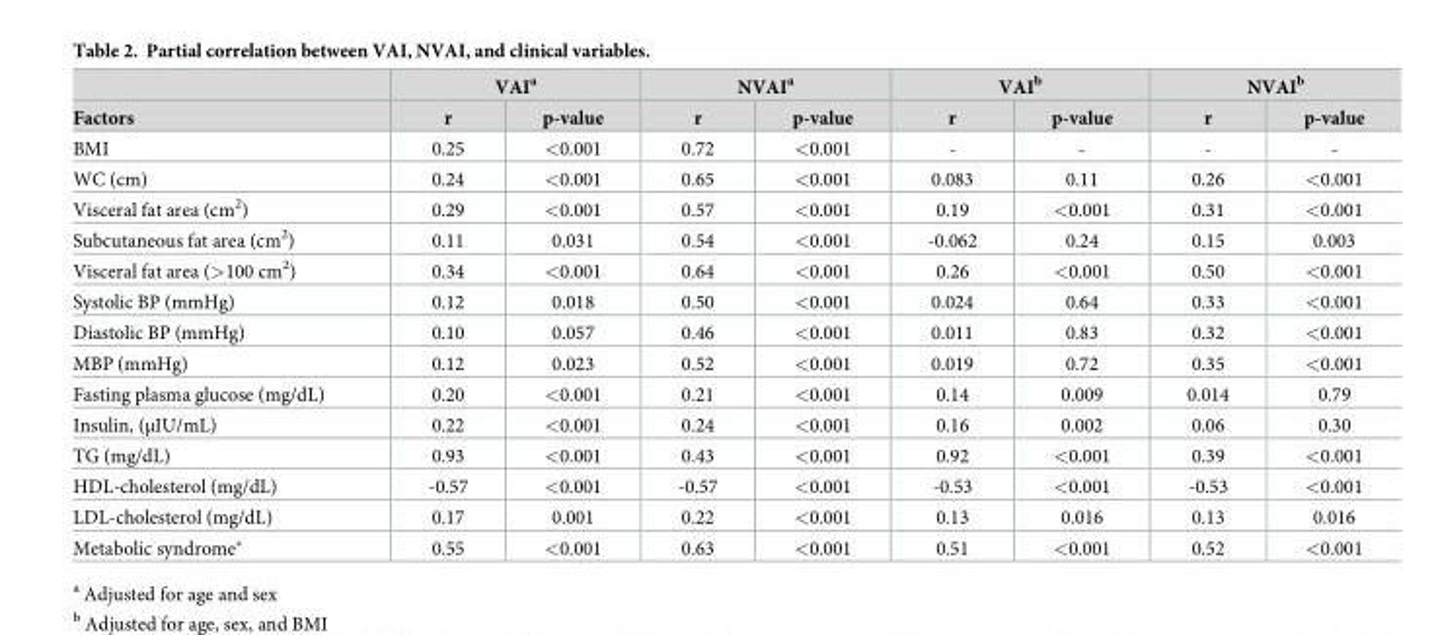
<table><thead><tr><td rowspan="2">Factors</td><td colspan="2">VAI<sup>a</sup></td><td colspan="2">NVAI<sup>a</sup></td><td colspan="2">VAI<sup>b</sup></td><td colspan="2">NVAI<sup>b</sup></td></tr><tr><td>r</td><td>p-value</td><td>r</td><td>p-value</td><td>r</td><td>p-value</td><td>r</td><td>p-value</td></tr></thead><tbody><tr><td>BMI</td><td>0.25</td><td>&lt;0.001</td><td>0.72</td><td>&lt;0.001</td><td>-</td><td>-</td><td>-</td><td>-</td></tr><tr><td>WC (cm)</td><td>0.24</td><td>&lt;0.001</td><td>0.65</td><td>&lt;0.001</td><td>0.083</td><td>0.11</td><td>0.26</td><td>&lt;0.001</td></tr><tr><td>Visceral fat area (cm<sup>2</sup>)</td><td>0.29</td><td>&lt;0.001</td><td>0.57</td><td>&lt;0.001</td><td>0.19</td><td>&lt;0.001</td><td>0.31</td><td>&lt;0.001</td></tr><tr><td>Subcutaneous fat area (cm<sup>2</sup>)</td><td>0.11</td><td>0.031</td><td>0.54</td><td>&lt;0.001</td><td>-0.062</td><td>0.24</td><td>0.15</td><td>0.003</td></tr><tr><td>Visceral fat area (&gt;100 cm<sup>2</sup>)</td><td>0.34</td><td>&lt;0.001</td><td>0.64</td><td>&lt;0.001</td><td>0.26</td><td>&lt;0.001</td><td>0.50</td><td>&lt;0.001</td></tr><tr><td>Systolic BP (mmHg)</td><td>0.12</td><td>0.018</td><td>0.50</td><td>&lt;0.001</td><td>0.024</td><td>0.64</td><td>0.33</td><td>&lt;0.001</td></tr><tr><td>Diastolic BP (mmHg)</td><td>0.10</td><td>0.057</td><td>0.46</td><td>&lt;0.001</td><td>0.011</td><td>0.83</td><td>0.32</td><td>&lt;0.001</td></tr><tr><td>MBP (mmHg)</td><td>0.12</td><td>0.023</td><td>0.52</td><td>&lt;0.001</td><td>0.019</td><td>0.72</td><td>0.35</td><td>&lt;0.001</td></tr><tr><td>Fasting plasma glucose (mg/dL)</td><td>0.20</td><td>&lt;0.001</td><td>0.21</td><td>&lt;0.001</td><td>0.14</td><td>0.009</td><td>0.014</td><td>0.79</td></tr><tr><td>Insulin, (μIU/mL)</td><td>0.22</td><td>&lt;0.001</td><td>0.24</td><td>&lt;0.001</td><td>0.16</td><td>0.002</td><td>0.06</td><td>0.30</td></tr><tr><td>TG (mg/dL)</td><td>0.93</td><td>&lt;0.001</td><td>0.43</td><td>&lt;0.001</td><td>0.92</td><td>&lt;0.001</td><td>0.39</td><td>&lt;0.001</td></tr><tr><td>HDL-cholesterol (mg/dL)</td><td>-0.57</td><td>&lt;0.001</td><td>-0.57</td><td>&lt;0.001</td><td>-0.53</td><td>&lt;0.001</td><td>-0.53</td><td>&lt;0.001</td></tr><tr><td>LDL-cholesterol (mg/dL)</td><td>0.17</td><td>0.001</td><td>0.22</td><td>&lt;0.001</td><td>0.13</td><td>0.016</td><td>0.13</td><td>0.016</td></tr><tr><td>Metabolic syndrome*</td><td>0.55</td><td>&lt;0.001</td><td>0.63</td><td>&lt;0.001</td><td>0.51</td><td>&lt;0.001</td><td>0.52</td><td>&lt;0.001</td></tr></tbody></table>